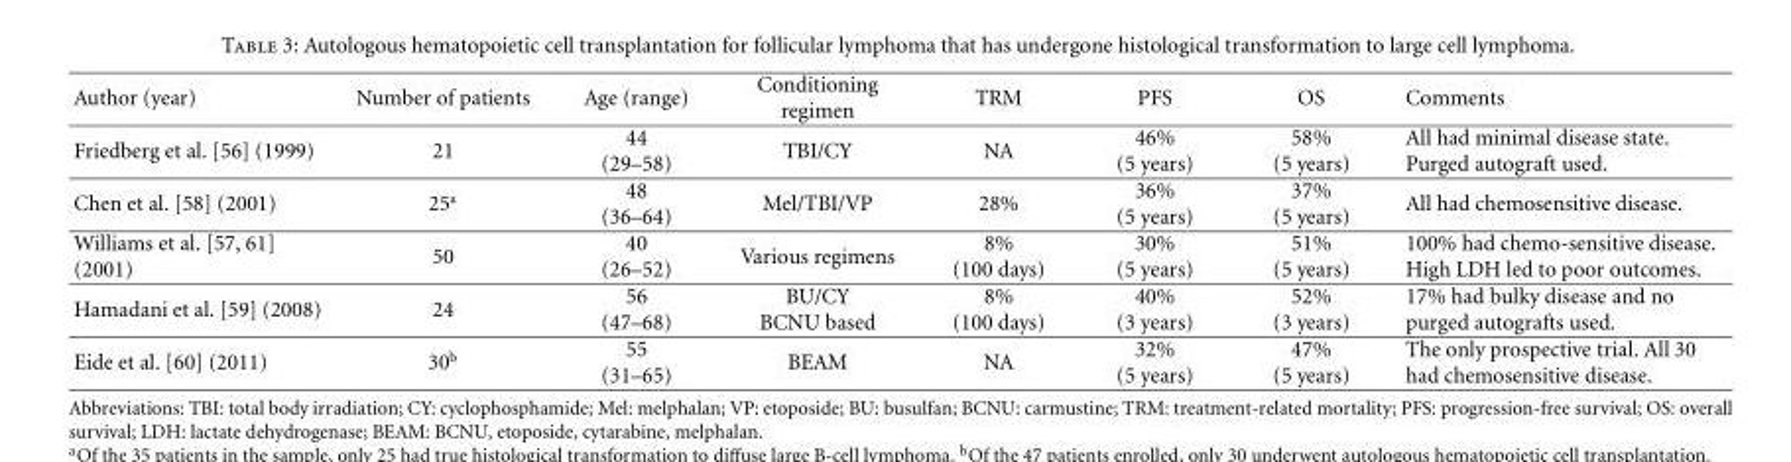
<table><thead><tr><td>Author (year)</td><td>Number of patients</td><td>Age (range)</td><td>Conditioning regimen</td><td>TRM</td><td>PFS</td><td>OS</td><td>Comments</td></tr></thead><tbody><tr><td>Friedberg et al. [56] (1999)</td><td>21</td><td>44 (29–58)</td><td>TBI/CY</td><td>NA</td><td>46% (5 years)</td><td>58% (5 years)</td><td>All had minimal disease state. Purged autograft used.</td></tr><tr><td>Chen et al. [58] (2001)</td><td>25<sup>a</sup></td><td>48 (36–64)</td><td>Mel/TBI/VP</td><td>28%</td><td>36% (5 years)</td><td>37% (5 years)</td><td>All had chemosensitive disease.</td></tr><tr><td>Williams et al. [57, 61] (2001)</td><td>50</td><td>40 (26–52)</td><td>Various regimens</td><td>8% (100 days)</td><td>30% (5 years)</td><td>51% (5 years)</td><td>100% had chemo-sensitive disease. High LDH led to poor outcomes.</td></tr><tr><td>Hamadani et al. [59] (2008)</td><td>24</td><td>56 (47–68)</td><td>BU/CY BCNU based</td><td>8% (100 days)</td><td>40% (3 years)</td><td>52% (3 years)</td><td>17% had bulky disease and no purged autografts used.</td></tr><tr><td>Eide et al. [60] (2011)</td><td>30<sup>b</sup></td><td>55 (31–65)</td><td>BEAM</td><td>NA</td><td>32% (5 years)</td><td>47% (5 years)</td><td>The only prospective trial. All 30 had chemosensitive disease.</td></tr></tbody></table>